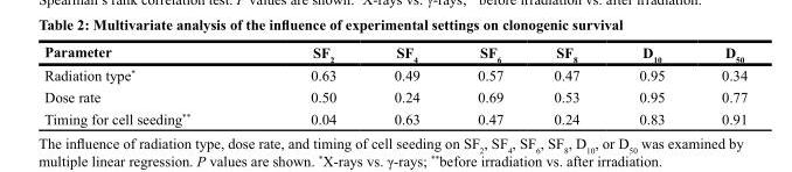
<table><thead><tr><td>Parameter</td><td>SF<sub>2</sub></td><td>SF<sub>4</sub></td><td>SF<sub>6</sub></td><td>SF<sub>8</sub></td><td>D<sub>10</sub></td><td>D<sub>50</sub></td></tr></thead><tbody><tr><td>Radiation type*</td><td>0.63</td><td>0.49</td><td>0.57</td><td>0.47</td><td>0.95</td><td>0.34</td></tr><tr><td>Dose rate</td><td>0.50</td><td>0.24</td><td>0.69</td><td>0.53</td><td>0.95</td><td>0.77</td></tr><tr><td>Timing for cell seeding**</td><td>0.04</td><td>0.63</td><td>0.47</td><td>0.24</td><td>0.83</td><td>0.91</td></tr></tbody></table>